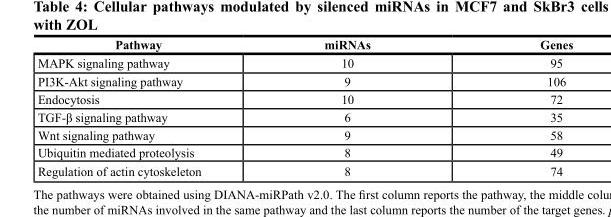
<table><thead><tr><td>Pathway</td><td>miRNAs</td><td>Genes</td></tr></thead><tbody><tr><td>MAPK signaling pathway</td><td>10</td><td>95</td></tr><tr><td>PI3K-Akt signaling pathway</td><td>9</td><td>106</td></tr><tr><td>Endocytosis</td><td>10</td><td>72</td></tr><tr><td>TGF-β signaling pathway</td><td>6</td><td>35</td></tr><tr><td>Wnt signaling pathway</td><td>9</td><td>58</td></tr><tr><td>Ubiquitin mediated proteolysis</td><td>8</td><td>49</td></tr><tr><td>Regulation of actin cytoskeleton</td><td>8</td><td>74</td></tr></tbody></table>